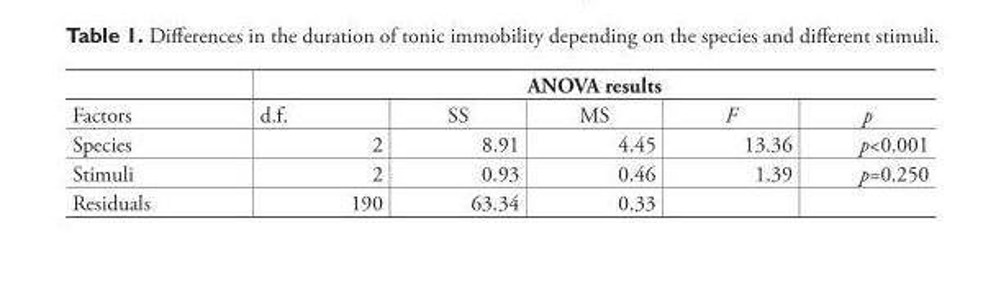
<table><thead><tr><td rowspan="2">Factors</td><td colspan="5">ANOVA results</td></tr><tr><td>d.f.</td><td>SS</td><td>MS</td><td>F</td><td>p</td></tr></thead><tbody><tr><td>Species</td><td>2</td><td>8.91</td><td>4.45</td><td>13.36</td><td>p&lt;0.001</td></tr><tr><td>Stimuli</td><td>2</td><td>0.93</td><td>0.46</td><td>1.39</td><td>p=0.250</td></tr><tr><td>Residuals</td><td>190</td><td>63.34</td><td>0.33</td><td></td><td></td></tr></tbody></table>